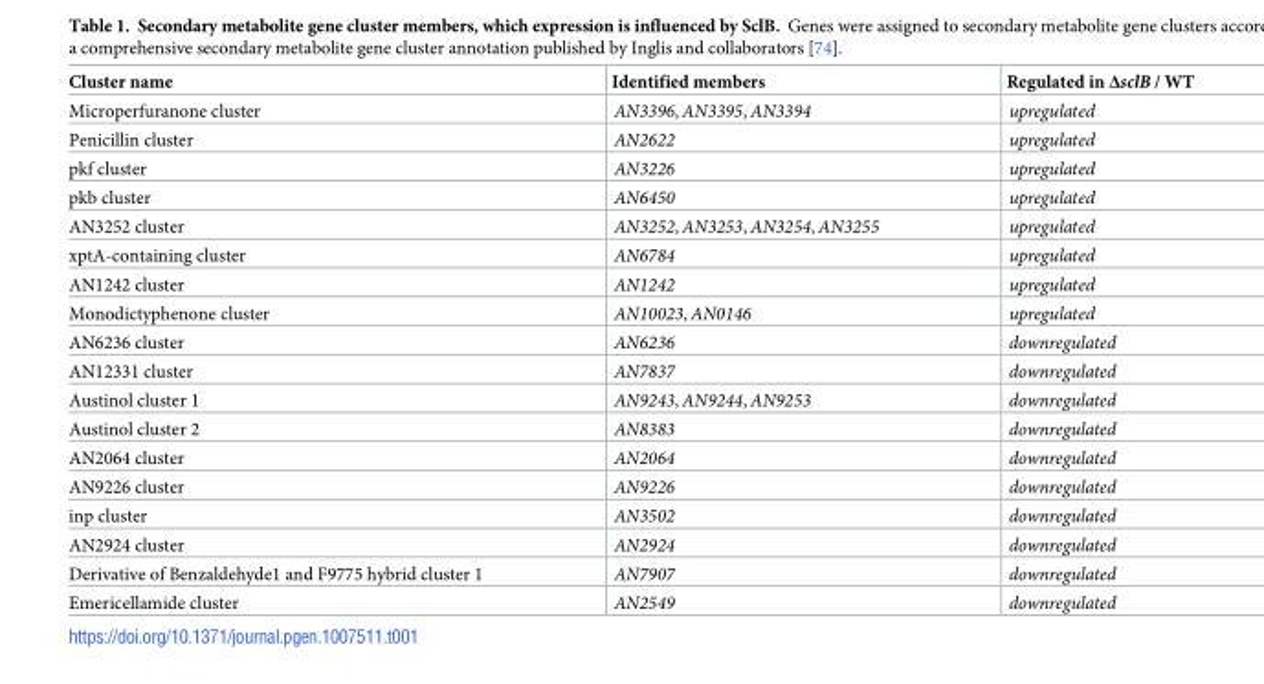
<table><thead><tr><td>Cluster name</td><td>Identified members</td><td>Regulated in ΔsclB / WT</td></tr></thead><tbody><tr><td>Microperfuranone cluster</td><td>AN3396, AN3395, AN3394</td><td>upregulated</td></tr><tr><td>Penicillin cluster</td><td>AN2622</td><td>upregulated</td></tr><tr><td>pkf cluster</td><td>AN3226</td><td>upregulated</td></tr><tr><td>pkb cluster</td><td>AN6450</td><td>upregulated</td></tr><tr><td>AN3252 cluster</td><td>AN3252, AN3253, AN3254, AN3255</td><td>upregulated</td></tr><tr><td>xptA-containing cluster</td><td>AN6784</td><td>upregulated</td></tr><tr><td>AN1242 cluster</td><td>AN1242</td><td>upregulated</td></tr><tr><td>Monodictyphenone cluster</td><td>AN10023, AN0146</td><td>upregulated</td></tr><tr><td>AN6236 cluster</td><td>AN6236</td><td>downregulated</td></tr><tr><td>AN12331 cluster</td><td>AN7837</td><td>downregulated</td></tr><tr><td>Austinol cluster 1</td><td>AN9243, AN9244, AN9253</td><td>downregulated</td></tr><tr><td>Austinol cluster 2</td><td>AN8383</td><td>downregulated</td></tr><tr><td>AN2064 cluster</td><td>AN2064</td><td>downregulated</td></tr><tr><td>AN9226 cluster</td><td>AN9226</td><td>downregulated</td></tr><tr><td>inp cluster</td><td>AN3502</td><td>downregulated</td></tr><tr><td>AN2924 cluster</td><td>AN2924</td><td>downregulated</td></tr><tr><td>Derivative of Benzaldehyde1 and F9775 hybrid cluster 1</td><td>AN7907</td><td>downregulated</td></tr><tr><td>Emericellamide cluster</td><td>AN2549</td><td>downregulated</td></tr></tbody></table>